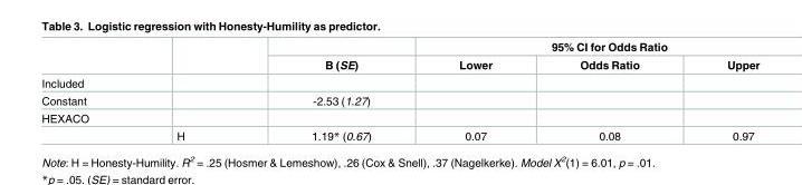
<table><thead><tr><td rowspan="2"></td><td rowspan="2"></td><td rowspan="2">B (SE)</td><td colspan="3">95% CI for Odds Ratio</td></tr><tr><td>Lower</td><td>Odds Ratio</td><td>Upper</td></tr></thead><tbody><tr><td colspan="6">Included</td></tr><tr><td>Constant</td><td></td><td>-2.53 (1.27)</td><td></td><td></td><td></td></tr><tr><td colspan="6">HEXACO</td></tr><tr><td></td><td>H</td><td>1.19* (0.67)</td><td>0.07</td><td>0.08</td><td>0.97</td></tr></tbody></table>